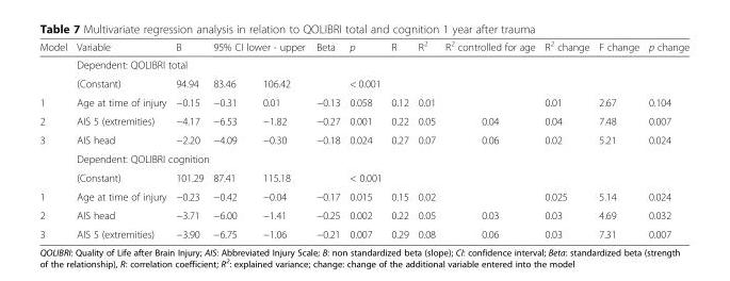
<table><thead><tr><td rowspan="3">Model</td><td>Variable</td><td>B</td><td colspan="2">95% CI lower - upper</td><td>Beta</td><td>p</td><td>R</td><td>R<sup>2</sup></td><td>R<sup>2</sup> controlled for age</td><td>R<sup>2</sup> change</td><td>F change</td><td>p change</td></tr><tr><td colspan="12">Dependent: QOLIBRI total</td></tr><tr><td>(Constant)</td><td>94.94</td><td>83.46</td><td>106.42</td><td></td><td>&lt; 0.001</td><td></td><td></td><td></td><td></td><td></td><td></td></tr></thead><tbody><tr><td>1</td><td>Age at time of injury</td><td>−0.15</td><td>−0.31</td><td>0.01</td><td>−0.13</td><td>0.058</td><td>0.12</td><td>0.01</td><td></td><td>0.01</td><td>2.67</td><td>0.104</td></tr><tr><td>2</td><td>AIS 5 (extremities)</td><td>−4.17</td><td>−6.53</td><td>−1.82</td><td>−0.27</td><td>0.001</td><td>0.22</td><td>0.05</td><td>0.04</td><td>0.04</td><td>7.48</td><td>0.007</td></tr><tr><td rowspan="3">3</td><td>AIS head</td><td>−2.20</td><td>−4.09</td><td>−0.30</td><td>−0.18</td><td>0.024</td><td>0.27</td><td>0.07</td><td>0.06</td><td>0.02</td><td>5.21</td><td>0.024</td></tr><tr><td colspan="12">Dependent: QOLIBRI cognition</td></tr><tr><td>(Constant)</td><td>101.29</td><td>87.41</td><td>115.18</td><td></td><td>&lt; 0.001</td><td></td><td></td><td></td><td></td><td></td><td></td></tr><tr><td>1</td><td>Age at time of injury</td><td>−0.23</td><td>−0.42</td><td>−0.04</td><td>−0.17</td><td>0.015</td><td>0.15</td><td>0.02</td><td></td><td>0.025</td><td>5.14</td><td>0.024</td></tr><tr><td>2</td><td>AIS head</td><td>−3.71</td><td>−6.00</td><td>−1.41</td><td>−0.25</td><td>0.002</td><td>0.22</td><td>0.05</td><td>0.03</td><td>0.03</td><td>4.69</td><td>0.032</td></tr><tr><td>3</td><td>AIS 5 (extremities)</td><td>−3.90</td><td>−6.75</td><td>−1.06</td><td>−0.21</td><td>0.007</td><td>0.29</td><td>0.08</td><td>0.06</td><td>0.03</td><td>7.31</td><td>0.007</td></tr></tbody></table>